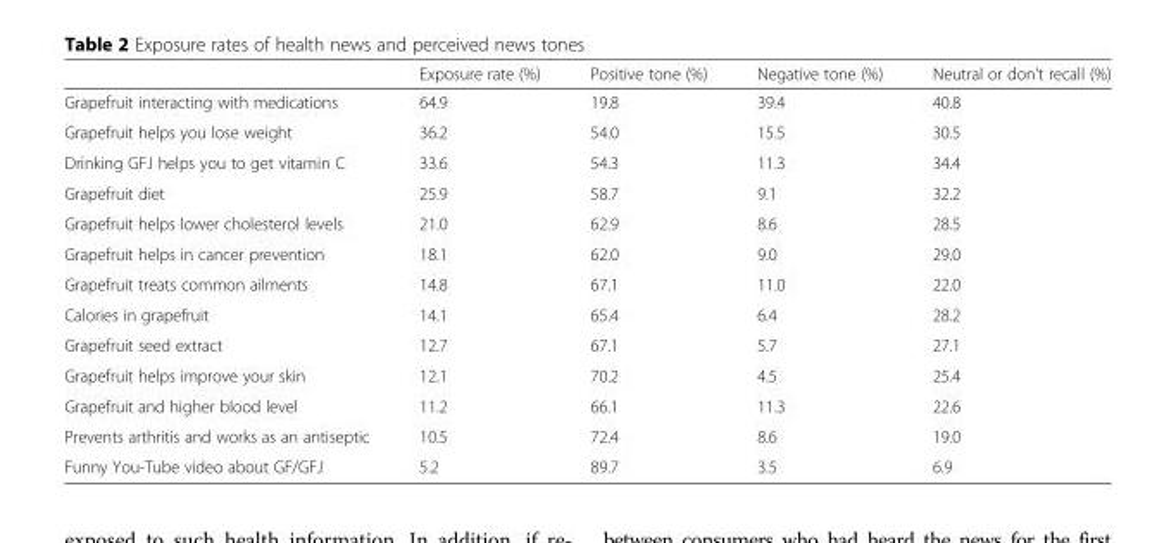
<table><thead><tr><td></td><td>Exposure rate (%)</td><td>Positive tone (%)</td><td>Negative tone (%)</td><td>Neutral or don’t recall (%)</td></tr></thead><tbody><tr><td>Grapefruit interacting with medications</td><td>64.9</td><td>19.8</td><td>39.4</td><td>40.8</td></tr><tr><td>Grapefruit helps you lose weight</td><td>36.2</td><td>54.0</td><td>15.5</td><td>30.5</td></tr><tr><td>Drinking GFJ helps you to get vitamin C</td><td>33.6</td><td>54.3</td><td>11.3</td><td>34.4</td></tr><tr><td>Grapefruit diet</td><td>25.9</td><td>58.7</td><td>9.1</td><td>32.2</td></tr><tr><td>Grapefruit helps lower cholesterol levels</td><td>21.0</td><td>62.9</td><td>8.6</td><td>28.5</td></tr><tr><td>Grapefruit helps in cancer prevention</td><td>18.1</td><td>62.0</td><td>9.0</td><td>29.0</td></tr><tr><td>Grapefruit treats common ailments</td><td>14.8</td><td>67.1</td><td>11.0</td><td>22.0</td></tr><tr><td>Calories in grapefruit</td><td>14.1</td><td>65.4</td><td>6.4</td><td>28.2</td></tr><tr><td>Grapefruit seed extract</td><td>12.7</td><td>67.1</td><td>5.7</td><td>27.1</td></tr><tr><td>Grapefruit helps improve your skin</td><td>12.1</td><td>70.2</td><td>4.5</td><td>25.4</td></tr><tr><td>Grapefruit and higher blood level</td><td>11.2</td><td>66.1</td><td>11.3</td><td>22.6</td></tr><tr><td>Prevents arthritis and works as an antiseptic</td><td>10.5</td><td>72.4</td><td>8.6</td><td>19.0</td></tr><tr><td>Funny You-Tube video about GF/GFJ</td><td>5.2</td><td>89.7</td><td>3.5</td><td>6.9</td></tr></tbody></table>